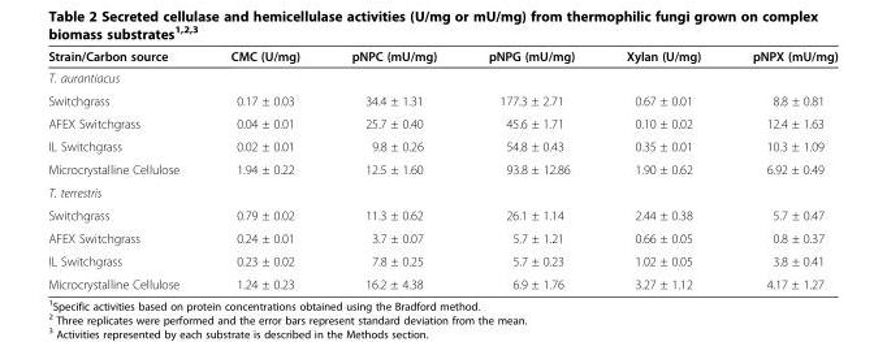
<table><thead><tr><td>Strain/Carbon source</td><td>CMC (U/mg)</td><td>pNPC (mU/mg)</td><td>pNPG (mU/mg)</td><td>Xylan (U/mg)</td><td>pNPX (mU/mg)</td></tr></thead><tbody><tr><td colspan="6">T. aurantiacus</td></tr><tr><td>Switchgrass</td><td>0.17 ± 0.03</td><td>34.4 ± 1.31</td><td>177.3 ± 2.71</td><td>0.67 ± 0.01</td><td>8.8 ± 0.81</td></tr><tr><td>AFEX Switchgrass</td><td>0.04 ± 0.01</td><td>25.7 ± 0.40</td><td>45.6 ± 1.71</td><td>0.10 ± 0.02</td><td>12.4 ± 1.63</td></tr><tr><td>IL Switchgrass</td><td>0.02 ± 0.01</td><td>9.8 ± 0.26</td><td>54.8 ± 0.43</td><td>0.35 ± 0.01</td><td>10.3 ± 1.09</td></tr><tr><td>Microcrystalline Cellulose</td><td>1.94 ± 0.22</td><td>12.5 ± 1.60</td><td>93.8 ± 12.86</td><td>1.90 ± 0.62</td><td>6.92 ± 0.49</td></tr><tr><td colspan="6">T. terrestris</td></tr><tr><td>Switchgrass</td><td>0.79 ± 0.02</td><td>11.3 ± 0.62</td><td>26.1 ± 1.14</td><td>2.44 ± 0.38</td><td>5.7 ± 0.47</td></tr><tr><td>AFEX Switchgrass</td><td>0.24 ± 0.01</td><td>3.7 ± 0.07</td><td>5.7 ± 1.21</td><td>0.66 ± 0.05</td><td>0.8 ± 0.37</td></tr><tr><td>IL Switchgrass</td><td>0.23 ± 0.02</td><td>7.8 ± 0.25</td><td>5.7 ± 0.23</td><td>1.02 ± 0.05</td><td>3.8 ± 0.41</td></tr><tr><td>Microcrystalline Cellulose</td><td>1.24 ± 0.23</td><td>16.2 ± 4.38</td><td>6.9 ± 1.76</td><td>3.27 ± 1.12</td><td>4.17 ± 1.27</td></tr></tbody></table>